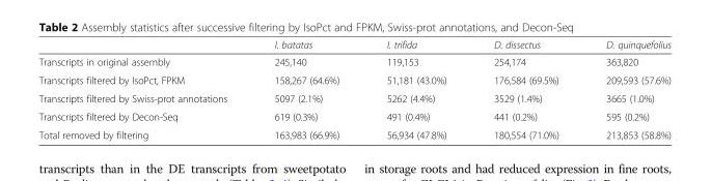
<table><thead><tr><td></td><td>I. batatas</td><td>I. trifida</td><td>D. dissectus</td><td>D. quinquefolius</td></tr></thead><tbody><tr><td>Transcripts in original assembly</td><td>245,140</td><td>119,153</td><td>254,174</td><td>363,820</td></tr><tr><td>Transcripts filtered by IsoPct, FPKM</td><td>158,267 (64.6%)</td><td>51,181 (43.0%)</td><td>176,584 (69.5%)</td><td>209,593 (57.6%)</td></tr><tr><td>Transcripts filtered by Swiss-prot annotations</td><td>5097 (2.1%)</td><td>5262 (4.4%)</td><td>3529 (1.4%)</td><td>3665 (1.0%)</td></tr><tr><td>Transcripts filtered by Decon-Seq</td><td>619 (0.3%)</td><td>491 (0.4%)</td><td>441 (0.2%)</td><td>595 (0.2%)</td></tr><tr><td>Total removed by filtering</td><td>163,983 (66.9%)</td><td>56,934 (47.8%)</td><td>180,554 (71.0%)</td><td>213,853 (58.8%)</td></tr></tbody></table>